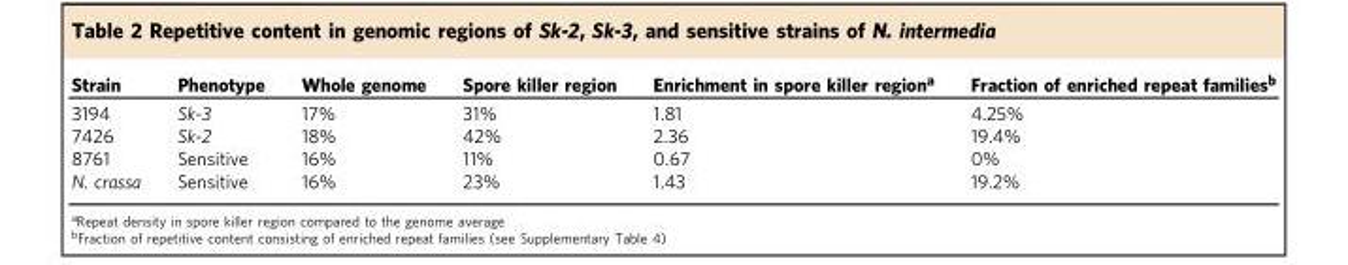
<table><thead><tr><td>Strain</td><td>Phenotype</td><td>Whole genome</td><td>Spore killer region</td><td>Enrichment in spore killer region<sup>a</sup></td><td>Fraction of enriched repeat families<sup>b</sup></td></tr></thead><tbody><tr><td>3194</td><td>Sk-3</td><td>17%</td><td>31%</td><td>1.81</td><td>4.25%</td></tr><tr><td>7426</td><td>Sk-2</td><td>18%</td><td>42%</td><td>2.36</td><td>19.4%</td></tr><tr><td>8761</td><td>Sensitive</td><td>16%</td><td>11%</td><td>0.67</td><td>0%</td></tr><tr><td>N. crassa</td><td>Sensitive</td><td>16%</td><td>23%</td><td>1.43</td><td>19.2%</td></tr></tbody></table>